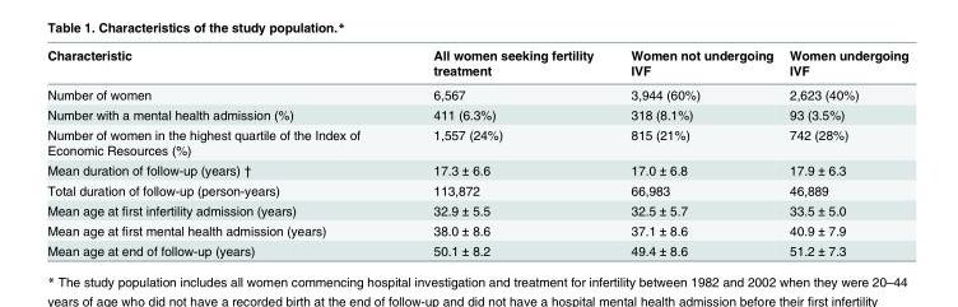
<table><thead><tr><td>Characteristic</td><td>All women seeking fertility treatment</td><td>Women not undergoing IVF</td><td>Women undergoing IVF</td></tr></thead><tbody><tr><td>Number of women</td><td>6,567</td><td>3,944 (60%)</td><td>2,623 (40%)</td></tr><tr><td>Number with a mental health admission (%)</td><td>411 (6.3%)</td><td>318 (8.1%)</td><td>93 (3.5%)</td></tr><tr><td>Number of women in the highest quartile of the Index of Economic Resources (%)</td><td>1,557 (24%)</td><td>815 (21%)</td><td>742 (28%)</td></tr><tr><td>Mean duration of follow-up (years) †</td><td>17.3 ± 6.6</td><td>17.0 ± 6.8</td><td>17.9 ± 6.3</td></tr><tr><td>Total duration of follow-up (person-years)</td><td>113,872</td><td>66,983</td><td>46,889</td></tr><tr><td>Mean age at first infertility admission (years)</td><td>32.9 ± 5.5</td><td>32.5 ± 5.7</td><td>33.5 ± 5.0</td></tr><tr><td>Mean age at first mental health admission (years)</td><td>38.0 ± 8.6</td><td>37.1 ± 8.6</td><td>40.9 ± 7.9</td></tr><tr><td>Mean age at end of follow-up (years)</td><td>50.1 ± 8.2</td><td>49.4 ± 8.6</td><td>51.2 ± 7.3</td></tr></tbody></table>